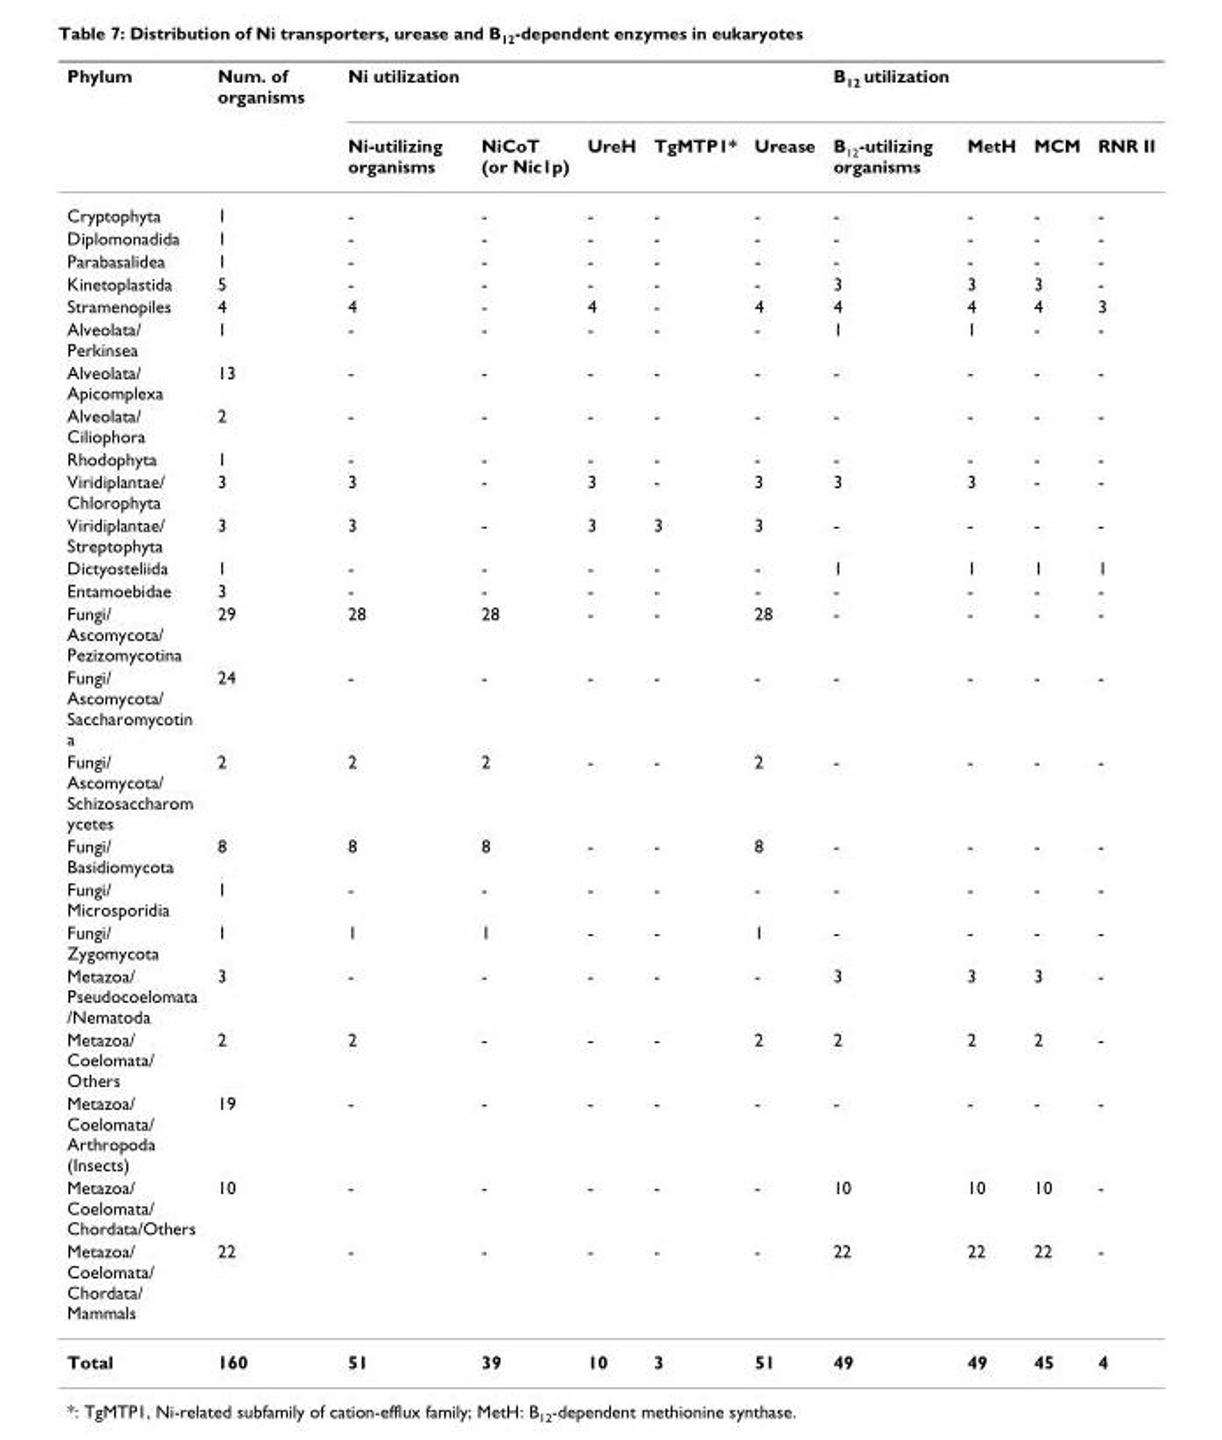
<table><thead><tr><td rowspan="2">Phylum</td><td rowspan="2">Num. of organisms</td><td colspan="5">Ni utilization</td><td colspan="4">B<sub>12</sub> utilization</td></tr><tr><td>Ni-utilizing organisms</td><td>NiCoT (or Nic1p)</td><td>UreH</td><td>TgMTP1*</td><td>Urease</td><td>B<sub>12</sub>-utilizing organisms</td><td>MetH</td><td>MCM</td><td>RNR II</td></tr></thead><tbody><tr><td>Cryptophyta</td><td>1</td><td>-</td><td>-</td><td>-</td><td>-</td><td>-</td><td>-</td><td>-</td><td>-</td><td>-</td></tr><tr><td>Diplomonadida</td><td>1</td><td>-</td><td>-</td><td>-</td><td>-</td><td>-</td><td>-</td><td>-</td><td>-</td><td>-</td></tr><tr><td>Parabasalidea</td><td>1</td><td>-</td><td>-</td><td>-</td><td>-</td><td>-</td><td>-</td><td>-</td><td>-</td><td>-</td></tr><tr><td>Kinetoplastida</td><td>5</td><td>-</td><td>-</td><td>-</td><td>-</td><td>-</td><td>3</td><td>3</td><td>3</td><td>-</td></tr><tr><td>Stramenopiles</td><td>4</td><td>4</td><td>-</td><td>4</td><td>-</td><td>4</td><td>4</td><td>4</td><td>4</td><td>3</td></tr><tr><td>Alveolata/ Perkinsea</td><td>1</td><td>-</td><td>-</td><td>-</td><td>-</td><td>-</td><td>1</td><td>1</td><td>-</td><td>-</td></tr><tr><td>Alveolata/ Apicomplexa</td><td>13</td><td>-</td><td>-</td><td>-</td><td>-</td><td>-</td><td>-</td><td>-</td><td>-</td><td>-</td></tr><tr><td>Alveolata/ Ciliophora</td><td>2</td><td>-</td><td>-</td><td>-</td><td>-</td><td>-</td><td>-</td><td>-</td><td>-</td><td>-</td></tr><tr><td>Rhodophyta</td><td>1</td><td>-</td><td>-</td><td>-</td><td>-</td><td>-</td><td>-</td><td>-</td><td>-</td><td>-</td></tr><tr><td>Viridiplantae/ Chlorophyta</td><td>3</td><td>3</td><td>-</td><td>3</td><td>-</td><td>3</td><td>3</td><td>3</td><td>-</td><td>-</td></tr><tr><td>Viridiplantae/ Streptophyta</td><td>3</td><td>3</td><td>-</td><td>3</td><td>3</td><td>3</td><td>-</td><td>-</td><td>-</td><td>-</td></tr><tr><td>Dictyosteliida</td><td>1</td><td>-</td><td>-</td><td>-</td><td>-</td><td>-</td><td>1</td><td>1</td><td>1</td><td>1</td></tr><tr><td>Entamoebidae</td><td>3</td><td>-</td><td>-</td><td>-</td><td>-</td><td>-</td><td>-</td><td>-</td><td>-</td><td>-</td></tr><tr><td>Fungi/ Ascomycota/ Pezizomycotina</td><td>29</td><td>28</td><td>28</td><td>-</td><td>-</td><td>28</td><td>-</td><td>-</td><td>-</td><td>-</td></tr><tr><td>Fungi/ Ascomycota/ Saccharomycotin a</td><td>24</td><td>-</td><td>-</td><td>-</td><td>-</td><td>-</td><td>-</td><td>-</td><td>-</td><td>-</td></tr><tr><td>Fungi/ Ascomycota/ Schizosaccharom ycetes</td><td>2</td><td>2</td><td>2</td><td>-</td><td>-</td><td>2</td><td>-</td><td>-</td><td>-</td><td>-</td></tr><tr><td>Fungi/ Basidiomycota</td><td>8</td><td>8</td><td>8</td><td>-</td><td>-</td><td>8</td><td>-</td><td>-</td><td>-</td><td>-</td></tr><tr><td>Fungi/ Microsporidia</td><td>1</td><td>-</td><td>-</td><td>-</td><td>-</td><td>-</td><td>-</td><td>-</td><td>-</td><td>-</td></tr><tr><td>Fungi/ Zygomycota</td><td>1</td><td>1</td><td>1</td><td>-</td><td>-</td><td>1</td><td>-</td><td>-</td><td>-</td><td>-</td></tr><tr><td>Metazoa/ Pseudocoelomata /Nematoda</td><td>3</td><td>-</td><td>-</td><td>-</td><td>-</td><td>-</td><td>3</td><td>3</td><td>3</td><td>-</td></tr><tr><td>Metazoa/ Coelomata/ Others</td><td>2</td><td>2</td><td>-</td><td>-</td><td>-</td><td>2</td><td>2</td><td>2</td><td>2</td><td>-</td></tr><tr><td>Metazoa/ Coelomata/ Arthropoda (Insects)</td><td>19</td><td>-</td><td>-</td><td>-</td><td>-</td><td>-</td><td>-</td><td>-</td><td>-</td><td>-</td></tr><tr><td>Metazoa/ Coelomata/ Chordata/Others</td><td>10</td><td>-</td><td>-</td><td>-</td><td>-</td><td>-</td><td>10</td><td>10</td><td>10</td><td>-</td></tr><tr><td>Metazoa/ Coelomata/ Chordata/ Mammals</td><td>22</td><td>-</td><td>-</td><td>-</td><td>-</td><td>-</td><td>22</td><td>22</td><td>22</td><td>-</td></tr><tr><td>Total</td><td>160</td><td>51</td><td>39</td><td>10</td><td>3</td><td>51</td><td>49</td><td>49</td><td>45</td><td>4</td></tr></tbody></table>